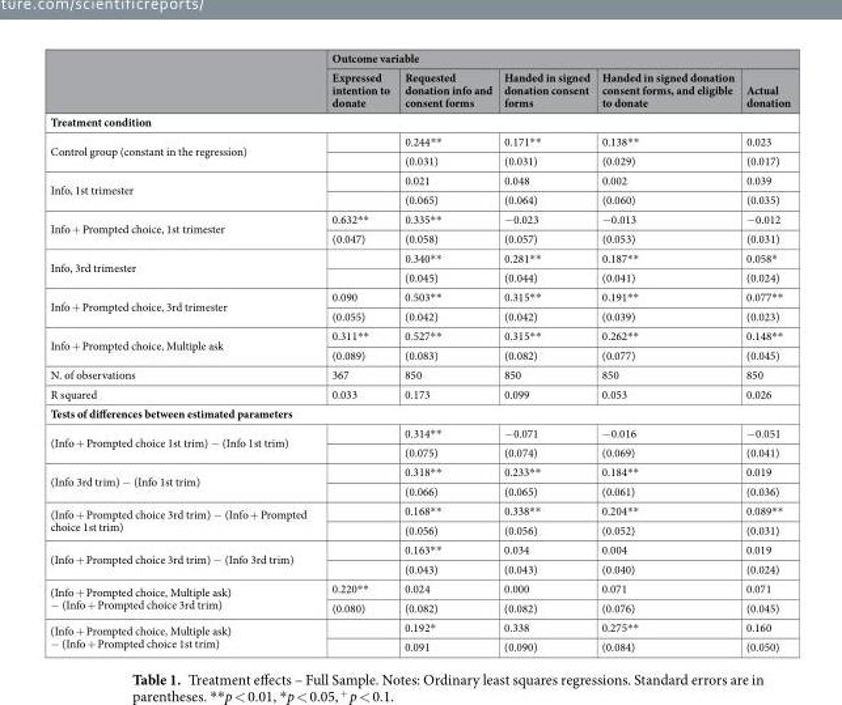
<table><thead><tr><td rowspan="2"></td><td colspan="5">Outcome variable</td></tr><tr><td>Expressed intention to donate</td><td>Requested donation info and consent forms</td><td>Handed in signed donation consent forms</td><td>Handed in signed donation consent forms, and eligible to donate</td><td>Actual donation</td></tr></thead><tbody><tr><td colspan="6">Treatment condition</td></tr><tr><td rowspan="2">Control group (constant in the regression)</td><td></td><td>0.244**</td><td>0.171**</td><td>0.138**</td><td>0.023</td></tr><tr><td></td><td>(0.031)</td><td>(0.031)</td><td>(0.029)</td><td>(0.017)</td></tr><tr><td rowspan="2">Info, 1st trimester</td><td></td><td>0.021</td><td>0.048</td><td>0.002</td><td>0.039</td></tr><tr><td></td><td>(0.065)</td><td>(0.064)</td><td>(0.060)</td><td>(0.035)</td></tr><tr><td rowspan="2">Info + Prompted choice, 1st trimester</td><td>0.632**</td><td>0.335**</td><td>−0.023</td><td>−0.013</td><td>−0.012</td></tr><tr><td>(0.047)</td><td>(0.058)</td><td>(0.057)</td><td>(0.053)</td><td>(0.031)</td></tr><tr><td rowspan="2">Info, 3rd trimester</td><td></td><td>0.340**</td><td>0.281**</td><td>0.187**</td><td>0.058*</td></tr><tr><td></td><td>(0.045)</td><td>(0.044)</td><td>(0.041)</td><td>(0.024)</td></tr><tr><td rowspan="2">Info + Prompted choice, 3rd trimester</td><td>0.090</td><td>0.503**</td><td>0.315**</td><td>0.191**</td><td>0.077**</td></tr><tr><td>(0.055)</td><td>(0.042)</td><td>(0.042)</td><td>(0.039)</td><td>(0.023)</td></tr><tr><td rowspan="2">Info + Prompted choice, Multiple ask</td><td>0.311**</td><td>0.527**</td><td>0.315**</td><td>0.262**</td><td>0.148**</td></tr><tr><td>(0.089)</td><td>(0.083)</td><td>(0.082)</td><td>(0.077)</td><td>(0.045)</td></tr><tr><td>N. of observations</td><td>367</td><td>850</td><td>850</td><td>850</td><td>850</td></tr><tr><td>R squared</td><td>0.033</td><td>0.173</td><td>0.099</td><td>0.053</td><td>0.026</td></tr><tr><td colspan="6">Tests of differences between estimated parameters</td></tr><tr><td rowspan="2">(Info + Prompted choice 1st trim) − (Info 1st trim)</td><td></td><td>0.314**</td><td>−0.071</td><td>−0.016</td><td>−0.051</td></tr><tr><td></td><td>(0.075)</td><td>(0.074)</td><td>(0.069)</td><td>(0.041)</td></tr><tr><td rowspan="2">(Info 3rd trim) − (Info 1st trim)</td><td></td><td>0.318**</td><td>0.233**</td><td>0.184**</td><td>0.019</td></tr><tr><td></td><td>(0.066)</td><td>(0.065)</td><td>(0.061)</td><td>(0.036)</td></tr><tr><td rowspan="2">(Info + Prompted choice 3rd trim) − (Info + Prompted choice 1st trim)</td><td></td><td>0.168**</td><td>0.338**</td><td>0.204**</td><td>0.089**</td></tr><tr><td></td><td>(0.056)</td><td>(0.056)</td><td>(0.052)</td><td>(0.031)</td></tr><tr><td rowspan="2">(Info + Prompted choice 3rd trim) − (Info 3rd trim)</td><td></td><td>0.163**</td><td>0.034</td><td>0.004</td><td>0.019</td></tr><tr><td></td><td>(0.043)</td><td>(0.043)</td><td>(0.040)</td><td>(0.024)</td></tr><tr><td rowspan="2">(Info + Prompted choice, Multiple ask) − (Info + Prompted choice 3rd trim)</td><td>0.220**</td><td>0.024</td><td>0.000</td><td>0.071</td><td>0.071</td></tr><tr><td>(0.080)</td><td>(0.082)</td><td>(0.082)</td><td>(0.076)</td><td>(0.045)</td></tr><tr><td rowspan="2">(Info + Prompted choice, Multiple ask) − (Info + Prompted choice 1st trim)</td><td></td><td>0.192*</td><td>0.338</td><td>0.275**</td><td>0.160</td></tr><tr><td></td><td>0.091</td><td>(0.090)</td><td>(0.084)</td><td>(0.050)</td></tr></tbody></table>